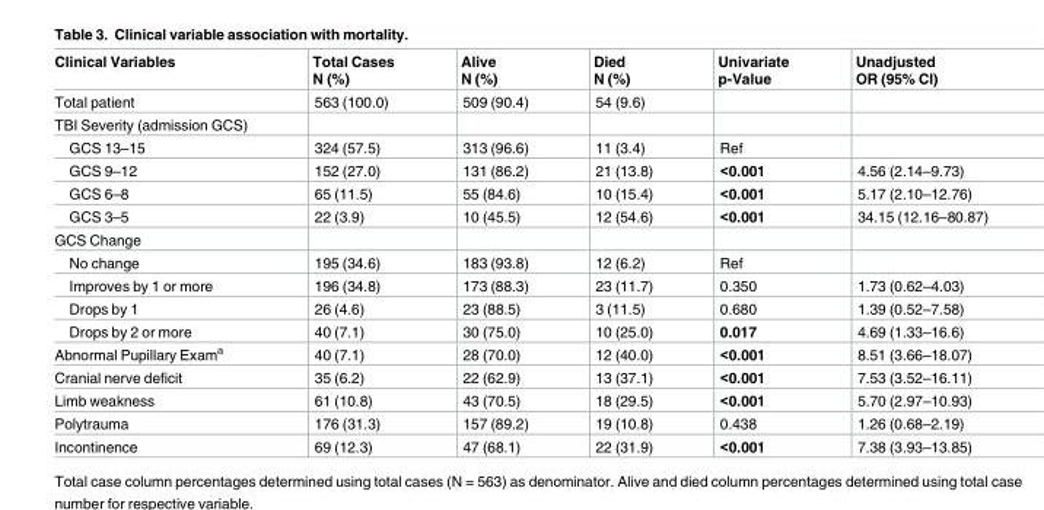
<table><thead><tr><td>Clinical Variables</td><td>Total Cases N (%)</td><td>Alive N (%)</td><td>Died N (%)</td><td>Univariate p-Value</td><td>Unadjusted OR (95% CI)</td></tr></thead><tbody><tr><td>Total patient</td><td>563 (100.0)</td><td>509 (90.4)</td><td>54 (9.6)</td><td></td><td></td></tr><tr><td colspan="6">TBI Severity (admission GCS)</td></tr><tr><td>GCS 13–15</td><td>324 (57.5)</td><td>313 (96.6)</td><td>11 (3.4)</td><td>Ref</td><td></td></tr><tr><td>GCS 9–12</td><td>152 (27.0)</td><td>131 (86.2)</td><td>21 (13.8)</td><td>&lt;0.001</td><td>4.56 (2.14–9.73)</td></tr><tr><td>GCS 6–8</td><td>65 (11.5)</td><td>55 (84.6)</td><td>10 (15.4)</td><td>&lt;0.001</td><td>5.17 (2.10–12.76)</td></tr><tr><td>GCS 3–5</td><td>22 (3.9)</td><td>10 (45.5)</td><td>12 (54.6)</td><td>&lt;0.001</td><td>34.15 (12.16–80.87)</td></tr><tr><td colspan="6">GCS Change</td></tr><tr><td>No change</td><td>195 (34.6)</td><td>183 (93.8)</td><td>12 (6.2)</td><td>Ref</td><td></td></tr><tr><td>Improves by 1 or more</td><td>196 (34.8)</td><td>173 (88.3)</td><td>23 (11.7)</td><td>0.350</td><td>1.73 (0.62–4.03)</td></tr><tr><td>Drops by 1</td><td>26 (4.6)</td><td>23 (88.5)</td><td>3 (11.5)</td><td>0.680</td><td>1.39 (0.52–7.58)</td></tr><tr><td>Drops by 2 or more</td><td>40 (7.1)</td><td>30 (75.0)</td><td>10 (25.0)</td><td>0.017</td><td>4.69 (1.33–16.6)</td></tr><tr><td>Abnormal Pupillary Exam<sup>a</sup></td><td>40 (7.1)</td><td>28 (70.0)</td><td>12 (40.0)</td><td>&lt;0.001</td><td>8.51 (3.66–18.07)</td></tr><tr><td>Cranial nerve deficit</td><td>35 (6.2)</td><td>22 (62.9)</td><td>13 (37.1)</td><td>&lt;0.001</td><td>7.53 (3.52–16.11)</td></tr><tr><td>Limb weakness</td><td>61 (10.8)</td><td>43 (70.5)</td><td>18 (29.5)</td><td>&lt;0.001</td><td>5.70 (2.97–10.93)</td></tr><tr><td>Polytrauma</td><td>176 (31.3)</td><td>157 (89.2)</td><td>19 (10.8)</td><td>0.438</td><td>1.26 (0.68–2.19)</td></tr><tr><td>Incontinence</td><td>69 (12.3)</td><td>47 (68.1)</td><td>22 (31.9)</td><td>&lt;0.001</td><td>7.38 (3.93–13.85)</td></tr></tbody></table>